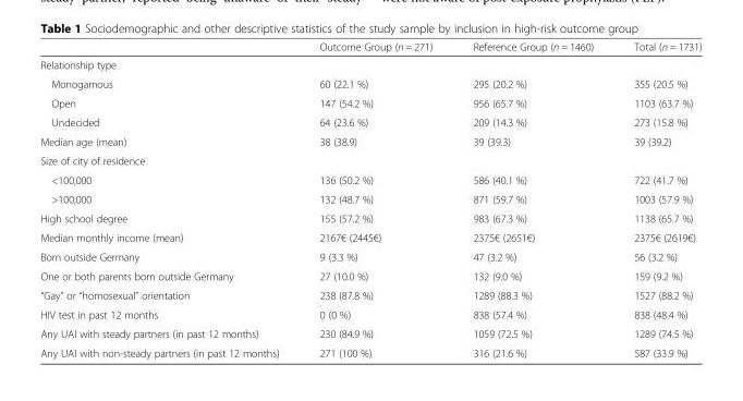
<table><thead><tr><td></td><td>Outcome Group (n = 271)</td><td>Reference Group (n = 1460)</td><td>Total (n = 1731)</td></tr></thead><tbody><tr><td colspan="4">Relationship type</td></tr><tr><td>Monogamous</td><td>60 (22.1 %)</td><td>295 (20.2 %)</td><td>355 (20.5 %)</td></tr><tr><td>Open</td><td>147 (54.2 %)</td><td>956 (65.7 %)</td><td>1103 (63.7 %)</td></tr><tr><td>Undecided</td><td>64 (23.6 %)</td><td>209 (14.3 %)</td><td>273 (15.8 %)</td></tr><tr><td>Median age (mean)</td><td>38 (38.9)</td><td>39 (39.3)</td><td>39 (39.2)</td></tr><tr><td colspan="4">Size of city of residence</td></tr><tr><td>&lt;100,000</td><td>136 (50.2 %)</td><td>586 (40.1 %)</td><td>722 (41.7 %)</td></tr><tr><td>&gt;100,000</td><td>132 (48.7 %)</td><td>871 (59.7 %)</td><td>1003 (57.9 %)</td></tr><tr><td>High school degree</td><td>155 (57.2 %)</td><td>983 (67.3 %)</td><td>1138 (65.7 %)</td></tr><tr><td>Median monthly income (mean)</td><td>2167€ (2445€)</td><td>2375€ (2651€)</td><td>2375€ (2619€)</td></tr><tr><td>Born outside Germany</td><td>9 (3.3 %)</td><td>47 (3.2 %)</td><td>56 (3.2 %)</td></tr><tr><td>One or both parents born outside Germany</td><td>27 (10.0 %)</td><td>132 (9.0 %)</td><td>159 (9.2 %)</td></tr><tr><td>“Gay” or “homosexual” orientation</td><td>238 (87.8 %)</td><td>1289 (88.3 %)</td><td>1527 (88.2 %)</td></tr><tr><td>HIV test in past 12 months</td><td>0 (0 %)</td><td>838 (57.4 %)</td><td>838 (48.4 %)</td></tr><tr><td>Any UAI with steady partners (in past 12 months)</td><td>230 (84.9 %)</td><td>1059 (72.5 %)</td><td>1289 (74.5 %)</td></tr><tr><td>Any UAI with non-steady partners (in past 12 months)</td><td>271 (100 %)</td><td>316 (21.6 %)</td><td>587 (33.9 %)</td></tr></tbody></table>